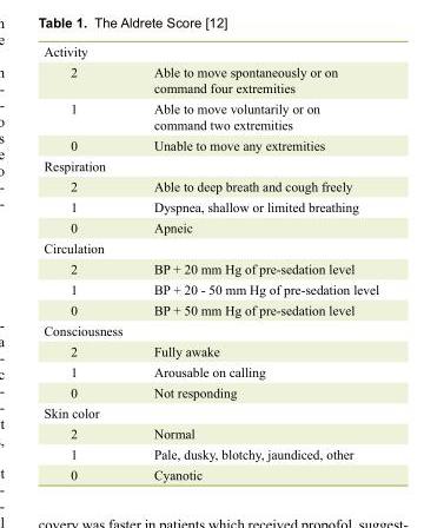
<table><tbody><tr><td colspan="2">Activity</td></tr><tr><td>2</td><td>Able to move spontaneously or on command four extremities</td></tr><tr><td>1</td><td>Able to move voluntarily or on command two extremities</td></tr><tr><td>0</td><td>Unable to move any extremities</td></tr><tr><td colspan="2">Respiration</td></tr><tr><td>2</td><td>Able to deep breath and cough freely</td></tr><tr><td>1</td><td>Dyspnea, shallow or limited breathing</td></tr><tr><td>0</td><td>Apneic</td></tr><tr><td colspan="2">Circulation</td></tr><tr><td>2</td><td>BP + 20 mm Hg of pre-sedation level</td></tr><tr><td>1</td><td>BP + 20 - 50 mm Hg of pre-sedation level</td></tr><tr><td>0</td><td>BP + 50 mm Hg of pre-sedation level</td></tr><tr><td colspan="2">Consciousness</td></tr><tr><td>2</td><td>Fully awake</td></tr><tr><td>1</td><td>Arousable on calling</td></tr><tr><td>0</td><td>Not responding</td></tr><tr><td colspan="2">Skin color</td></tr><tr><td>2</td><td>Normal</td></tr><tr><td>1</td><td>Pale, dusky, blotchy, jaundiced, other</td></tr><tr><td>0</td><td>Cyanotic</td></tr></tbody></table>